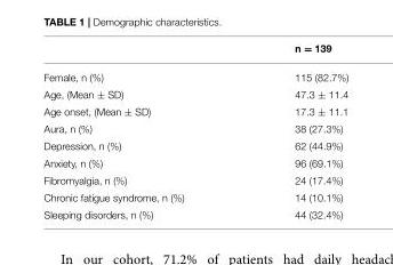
<table><thead><tr><td></td><td>n = 139</td></tr></thead><tbody><tr><td>Female, n (%)</td><td>115 (82.7%)</td></tr><tr><td>Age, (Mean ± SD)</td><td>47.3 ± 11.4</td></tr><tr><td>Age onset, (Mean ± SD)</td><td>17.3 ± 11.1</td></tr><tr><td>Aura, n (%)</td><td>38 (27.3%)</td></tr><tr><td>Depression, n (%)</td><td>62 (44.9%)</td></tr><tr><td>Anxiety, n (%)</td><td>96 (69.1%)</td></tr><tr><td>Fibromyalgia, n (%)</td><td>24 (17.4%)</td></tr><tr><td>Chronic fatigue syndrome, n (%)</td><td>14 (10.1%)</td></tr><tr><td>Sleeping disorders, n (%)</td><td>44 (32.4%)</td></tr></tbody></table>